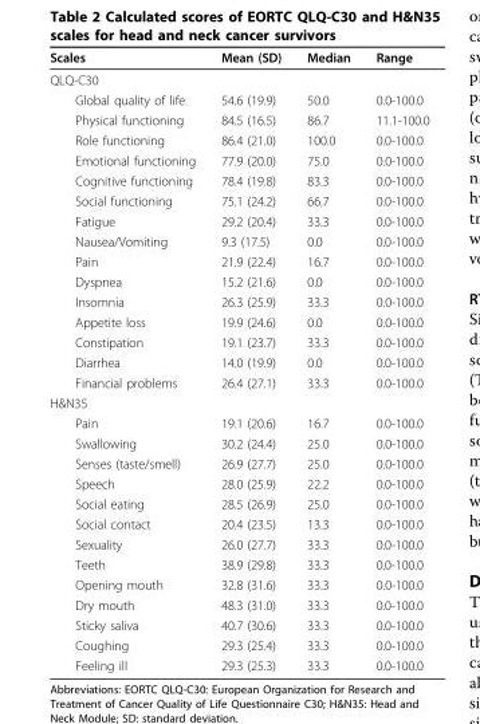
<table><thead><tr><td>Scales</td><td>Mean (SD)</td><td>Median</td><td>Range</td></tr></thead><tbody><tr><td colspan="4">QLQ-C30</td></tr><tr><td>Global quality of life</td><td>54.6 (19.9)</td><td>50.0</td><td>0.0-100.0</td></tr><tr><td>Physical functioning</td><td>84.5 (16.5)</td><td>86.7</td><td>11.1-100.0</td></tr><tr><td>Role functioning</td><td>86.4 (21.0)</td><td>100.0</td><td>0.0-100.0</td></tr><tr><td>Emotional functioning</td><td>77.9 (20.0)</td><td>75.0</td><td>0.0-100.0</td></tr><tr><td>Cognitive functioning</td><td>78.4 (19.8)</td><td>83.3</td><td>0.0-100.0</td></tr><tr><td>Social functioning</td><td>75.1 (24.2)</td><td>66.7</td><td>0.0-100.0</td></tr><tr><td>Fatigue</td><td>29.2 (20.4)</td><td>33.3</td><td>0.0-100.0</td></tr><tr><td>Nausea/Vomiting</td><td>9.3 (17.5)</td><td>0.0</td><td>0.0-100.0</td></tr><tr><td>Pain</td><td>21.9 (22.4)</td><td>16.7</td><td>0.0-100.0</td></tr><tr><td>Dyspnea</td><td>15.2 (21.6)</td><td>0.0</td><td>0.0-100.0</td></tr><tr><td>Insomnia</td><td>26.3 (25.9)</td><td>33.3</td><td>0.0-100.0</td></tr><tr><td>Appetite loss</td><td>19.9 (24.6)</td><td>0.0</td><td>0.0-100.0</td></tr><tr><td>Constipation</td><td>19.1 (23.7)</td><td>33.3</td><td>0.0-100.0</td></tr><tr><td>Diarrhea</td><td>14.0 (19.9)</td><td>0.0</td><td>0.0-100.0</td></tr><tr><td>Financial problems</td><td>26.4 (27.1)</td><td>33.3</td><td>0.0-100.0</td></tr><tr><td colspan="4">H&amp;N35</td></tr><tr><td>Pain</td><td>19.1 (20.6)</td><td>16.7</td><td>0.0-100.0</td></tr><tr><td>Swallowing</td><td>30.2 (24.4)</td><td>25.0</td><td>0.0-100.0</td></tr><tr><td>Senses (taste/smell)</td><td>26.9 (27.7)</td><td>25.0</td><td>0.0-100.0</td></tr><tr><td>Speech</td><td>28.0 (25.9)</td><td>22.2</td><td>0.0-100.0</td></tr><tr><td>Social eating</td><td>28.5 (26.9)</td><td>25.0</td><td>0.0-100.0</td></tr><tr><td>Social contact</td><td>20.4 (23.5)</td><td>13.3</td><td>0.0-100.0</td></tr><tr><td>Sexuality</td><td>26.0 (27.7)</td><td>33.3</td><td>0.0-100.0</td></tr><tr><td>Teeth</td><td>38.9 (29.8)</td><td>33.3</td><td>0.0-100.0</td></tr><tr><td>Opening mouth</td><td>32.8 (31.6)</td><td>33.3</td><td>0.0-100.0</td></tr><tr><td>Dry mouth</td><td>48.3 (31.0)</td><td>33.3</td><td>0.0-100.0</td></tr><tr><td>Sticky saliva</td><td>40.7 (30.6)</td><td>33.3</td><td>0.0-100.0</td></tr><tr><td>Coughing</td><td>29.3 (25.4)</td><td>33.3</td><td>0.0-100.0</td></tr><tr><td>Feeling ill</td><td>29.3 (25.3)</td><td>33.3</td><td>0.0-100.0</td></tr></tbody></table>